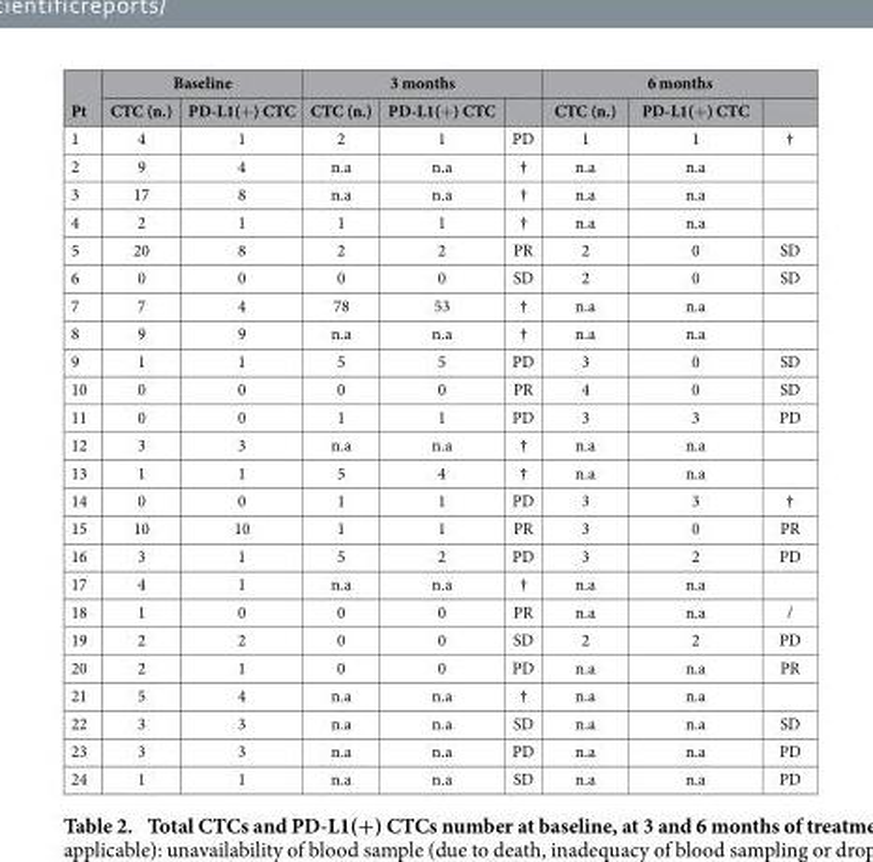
<table><thead><tr><td rowspan="2">Pt</td><td colspan="2">Baseline</td><td colspan="3">3 months</td><td colspan="3">6 months</td></tr><tr><td>CTC (n.)</td><td>PD-L1(+ ) CTC</td><td>CTC (n.)</td><td>PD-L1(+ ) CTC</td><td></td><td>CTC (n.)</td><td>PD-L1(+ ) CTC</td><td></td></tr></thead><tbody><tr><td>1</td><td>4</td><td>1</td><td>2</td><td>1</td><td>PD</td><td>1</td><td>1</td><td>†</td></tr><tr><td>2</td><td>9</td><td>4</td><td>n.a</td><td>n.a</td><td>†</td><td>n.a</td><td>n.a</td><td></td></tr><tr><td>3</td><td>17</td><td>8</td><td>n.a</td><td>n.a</td><td>†</td><td>n.a</td><td>n.a</td><td></td></tr><tr><td>4</td><td>2</td><td>1</td><td>1</td><td>1</td><td>†</td><td>n.a</td><td>n.a</td><td></td></tr><tr><td>5</td><td>20</td><td>8</td><td>2</td><td>2</td><td>PR</td><td>2</td><td>0</td><td>SD</td></tr><tr><td>6</td><td>0</td><td>0</td><td>0</td><td>0</td><td>SD</td><td>2</td><td>0</td><td>SD</td></tr><tr><td>7</td><td>7</td><td>4</td><td>78</td><td>53</td><td>†</td><td>n.a</td><td>n.a</td><td></td></tr><tr><td>8</td><td>9</td><td>9</td><td>n.a</td><td>n.a</td><td>†</td><td>n.a</td><td>n.a</td><td></td></tr><tr><td>9</td><td>1</td><td>1</td><td>5</td><td>5</td><td>PD</td><td>3</td><td>0</td><td>SD</td></tr><tr><td>10</td><td>0</td><td>0</td><td>0</td><td>0</td><td>PR</td><td>4</td><td>0</td><td>SD</td></tr><tr><td>11</td><td>0</td><td>0</td><td>1</td><td>1</td><td>PD</td><td>3</td><td>3</td><td>PD</td></tr><tr><td>12</td><td>3</td><td>3</td><td>n.a</td><td>n.a</td><td>†</td><td>n.a</td><td>n.a</td><td></td></tr><tr><td>13</td><td>1</td><td>1</td><td>5</td><td>4</td><td>†</td><td>n.a</td><td>n.a</td><td></td></tr><tr><td>14</td><td>0</td><td>0</td><td>1</td><td>1</td><td>PD</td><td>3</td><td>3</td><td>†</td></tr><tr><td>15</td><td>10</td><td>10</td><td>1</td><td>1</td><td>PR</td><td>3</td><td>0</td><td>PR</td></tr><tr><td>16</td><td>3</td><td>1</td><td>5</td><td>2</td><td>PD</td><td>3</td><td>2</td><td>PD</td></tr><tr><td>17</td><td>4</td><td>1</td><td>n.a</td><td>n.a</td><td>†</td><td>n.a</td><td>n.a</td><td></td></tr><tr><td>18</td><td>1</td><td>0</td><td>0</td><td>0</td><td>PR</td><td>n.a</td><td>n.a</td><td>/</td></tr><tr><td>19</td><td>2</td><td>2</td><td>0</td><td>0</td><td>SD</td><td>2</td><td>2</td><td>PD</td></tr><tr><td>20</td><td>2</td><td>1</td><td>0</td><td>0</td><td>PD</td><td>n.a</td><td>n.a</td><td>PR</td></tr><tr><td>21</td><td>5</td><td>4</td><td>n.a</td><td>n.a</td><td>†</td><td>n.a</td><td>n.a</td><td></td></tr><tr><td>22</td><td>3</td><td>3</td><td>n.a</td><td>n.a</td><td>SD</td><td>n.a</td><td>n.a</td><td>SD</td></tr><tr><td>23</td><td>3</td><td>3</td><td>n.a</td><td>n.a</td><td>PD</td><td>n.a</td><td>n.a</td><td>PD</td></tr><tr><td>24</td><td>1</td><td>1</td><td>n.a</td><td>n.a</td><td>SD</td><td>n.a</td><td>n.a</td><td>PD</td></tr></tbody></table>